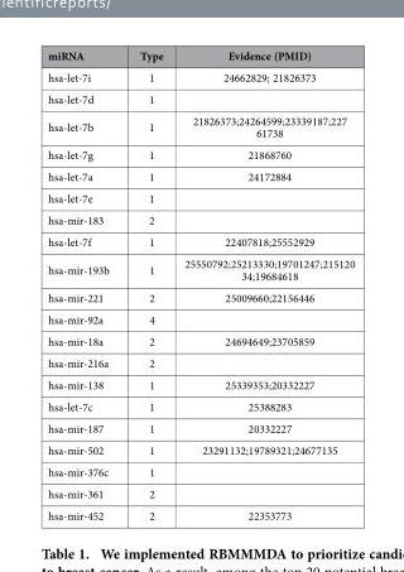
<table><thead><tr><td>miRNA</td><td>Type</td><td>Evidence (PMID)</td></tr></thead><tbody><tr><td>hsa-let-7i</td><td>1</td><td>24662829; 21826373</td></tr><tr><td>hsa-let-7d</td><td>1</td><td></td></tr><tr><td>hsa-let-7b</td><td>1</td><td>21826373;24264599;23339187;227 61738</td></tr><tr><td>hsa-let-7g</td><td>1</td><td>21868760</td></tr><tr><td>hsa-let-7a</td><td>1</td><td>24172884</td></tr><tr><td>hsa-let-7e</td><td>1</td><td></td></tr><tr><td>hsa-mir-183</td><td>2</td><td></td></tr><tr><td>hsa-let-7f</td><td>1</td><td>22407818;25552929</td></tr><tr><td>hsa-mir-193b</td><td>1</td><td>25550792;25213330;19701247;215120 34;19684618</td></tr><tr><td>hsa-mir-221</td><td>2</td><td>25009660;22156446</td></tr><tr><td>hsa-mir-92a</td><td>4</td><td></td></tr><tr><td>hsa-mir-18a</td><td>2</td><td>24694649;23705859</td></tr><tr><td>hsa-mir-216a</td><td>2</td><td></td></tr><tr><td>hsa-mir-138</td><td>1</td><td>25339353;20332227</td></tr><tr><td>hsa-let-7c</td><td>1</td><td>25388283</td></tr><tr><td>hsa-mir-187</td><td>1</td><td>20332227</td></tr><tr><td>hsa-mir-502</td><td>1</td><td>23291132;19789321;24677135</td></tr><tr><td>hsa-mir-376c</td><td>1</td><td></td></tr><tr><td>hsa-mir-361</td><td>2</td><td></td></tr><tr><td>hsa-mir-452</td><td>2</td><td>22353773</td></tr></tbody></table>